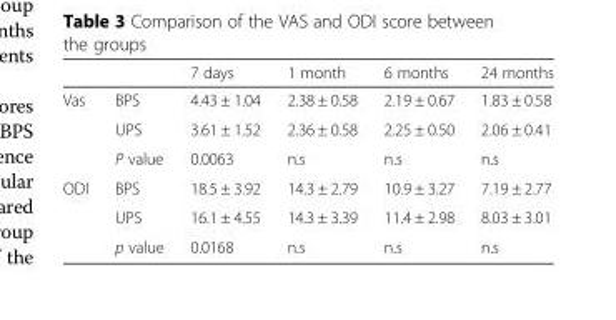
<table><thead><tr><td></td><td></td><td>7 days</td><td>1 month</td><td>6 months</td><td>24 months</td></tr></thead><tbody><tr><td rowspan="3">Vas</td><td>BPS</td><td>4.43 ± 1.04</td><td>2.38 ± 0.58</td><td>2.19 ± 0.67</td><td>1.83 ± 0.58</td></tr><tr><td>UPS</td><td>3.61 ± 1.52</td><td>2.36 ± 0.58</td><td>2.25 ± 0.50</td><td>2.06 ± 0.41</td></tr><tr><td>P value</td><td>0.0063</td><td>n.s</td><td>n.s</td><td>n.s</td></tr><tr><td rowspan="3">ODI</td><td>BPS</td><td>18.5 ± 3.92</td><td>14.3 ± 2.79</td><td>10.9 ± 3.27</td><td>7.19 ± 2.77</td></tr><tr><td>UPS</td><td>16.1 ± 4.55</td><td>14.3 ± 3.39</td><td>11.4 ± 2.98</td><td>8.03 ± 3.01</td></tr><tr><td>p value</td><td>0.0168</td><td>n.s</td><td>n.s</td><td>n.s</td></tr></tbody></table>